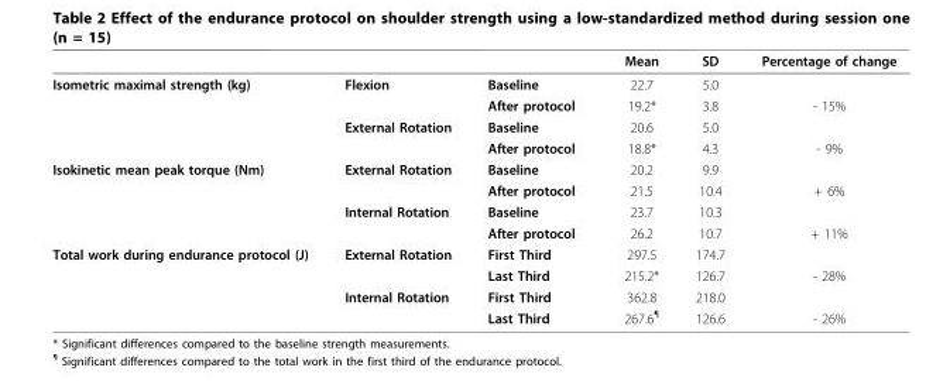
<table><thead><tr><td></td><td></td><td></td><td>Mean</td><td>SD</td><td>Percentage of change</td></tr></thead><tbody><tr><td rowspan="4">Isometric maximal strength (kg)</td><td>Flexion</td><td>Baseline</td><td>22.7</td><td>5.0</td><td></td></tr><tr><td></td><td>After protocol</td><td>19.2*</td><td>3.8</td><td>- 15%</td></tr><tr><td>External Rotation</td><td>Baseline</td><td>20.6</td><td>5.0</td><td></td></tr><tr><td></td><td>After protocol</td><td>18.8*</td><td>4.3</td><td>- 9%</td></tr><tr><td rowspan="4">Isokinetic mean peak torque (Nm)</td><td>External Rotation</td><td>Baseline</td><td>20.2</td><td>9.9</td><td></td></tr><tr><td></td><td>After protocol</td><td>21.5</td><td>10.4</td><td>+ 6%</td></tr><tr><td>Internal Rotation</td><td>Baseline</td><td>23.7</td><td>10.3</td><td></td></tr><tr><td></td><td>After protocol</td><td>26.2</td><td>10.7</td><td>+ 11%</td></tr><tr><td rowspan="4">Total work during endurance protocol (J)</td><td>External Rotation</td><td>First Third</td><td>297.5</td><td>174.7</td><td></td></tr><tr><td></td><td>Last Third</td><td>215.2*</td><td>126.7</td><td>- 28%</td></tr><tr><td>Internal Rotation</td><td>First Third</td><td>362.8</td><td>218.0</td><td></td></tr><tr><td></td><td>Last Third</td><td>267.6<sup>¶</sup></td><td>126.6</td><td>- 26%</td></tr></tbody></table>